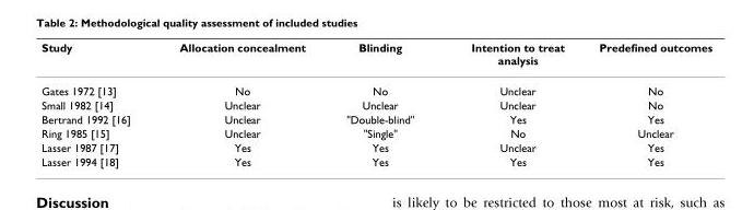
<table><thead><tr><td>Study</td><td>Allocation concealment</td><td>Blinding</td><td>Intention to treat analysis</td><td>Predefined outcomes</td></tr></thead><tbody><tr><td>Gates 1972 [13]</td><td>No</td><td>No</td><td>Unclear</td><td>No</td></tr><tr><td>Small 1982 [14]</td><td>Unclear</td><td>Unclear</td><td>Unclear</td><td>No</td></tr><tr><td>Bertrand 1992 [16]</td><td>Unclear</td><td>&quot;Double-blind&quot;</td><td>Yes</td><td>Yes</td></tr><tr><td>Ring 1985 [15]</td><td>Unclear</td><td>&quot;Single&quot;</td><td>No</td><td>Unclear</td></tr><tr><td>Lasser 1987 [17]</td><td>Yes</td><td>Yes</td><td>Unclear</td><td>Yes</td></tr><tr><td>Lasser 1994 [18]</td><td>Yes</td><td>Yes</td><td>Yes</td><td>Yes</td></tr></tbody></table>